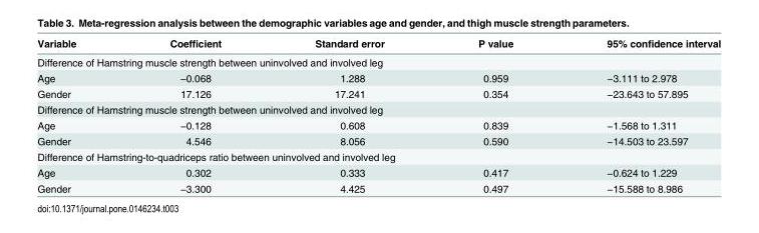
<table><thead><tr><td>Variable</td><td>Coefficient</td><td>Standard error</td><td>P value</td><td>95% confidence interval</td></tr></thead><tbody><tr><td colspan="5">Difference of Hamstring muscle strength between uninvolved and involved leg</td></tr><tr><td>Age</td><td>−0.068</td><td>1.288</td><td>0.959</td><td>−3.111 to 2.978</td></tr><tr><td>Gender</td><td>17.126</td><td>17.241</td><td>0.354</td><td>−23.643 to 57.895</td></tr><tr><td colspan="5">Difference of Hamstring muscle strength between uninvolved and involved leg</td></tr><tr><td>Age</td><td>−0.128</td><td>0.608</td><td>0.839</td><td>−1.568 to 1.311</td></tr><tr><td>Gender</td><td>4.546</td><td>8.056</td><td>0.590</td><td>−14.503 to 23.597</td></tr><tr><td colspan="5">Difference of Hamstring-to-quadriceps ratio between uninvolved and involved leg</td></tr><tr><td>Age</td><td>0.302</td><td>0.333</td><td>0.417</td><td>−0.624 to 1.229</td></tr><tr><td>Gender</td><td>−3.300</td><td>4.425</td><td>0.497</td><td>−15.588 to 8.986</td></tr></tbody></table>